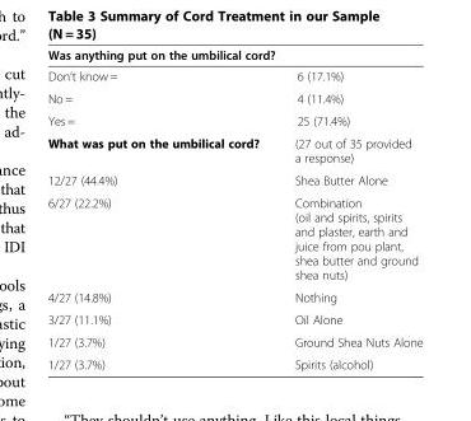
<table><thead><tr><td>Was anything put on the umbilical cord?</td><td></td></tr></thead><tbody><tr><td>Don’t know =</td><td>6 (17.1%)</td></tr><tr><td>No =</td><td>4 (11.4%)</td></tr><tr><td>Yes =</td><td>25 (71.4%)</td></tr><tr><td>What was put on the umbilical cord?</td><td>(27 out of 35 provided a response)</td></tr><tr><td>12/27 (44.4%)</td><td>Shea Butter Alone</td></tr><tr><td>6/27 (22.2%)</td><td>Combination (oil and spirits, spirits and plaster, earth and juice from pou plant, shea butter and ground shea nuts)</td></tr><tr><td>4/27 (14.8%)</td><td>Nothing</td></tr><tr><td>3/27 (11.1%)</td><td>Oil Alone</td></tr><tr><td>1/27 (3.7%)</td><td>Ground Shea Nuts Alone</td></tr><tr><td>1/27 (3.7%)</td><td>Spirits (alcohol)</td></tr></tbody></table>